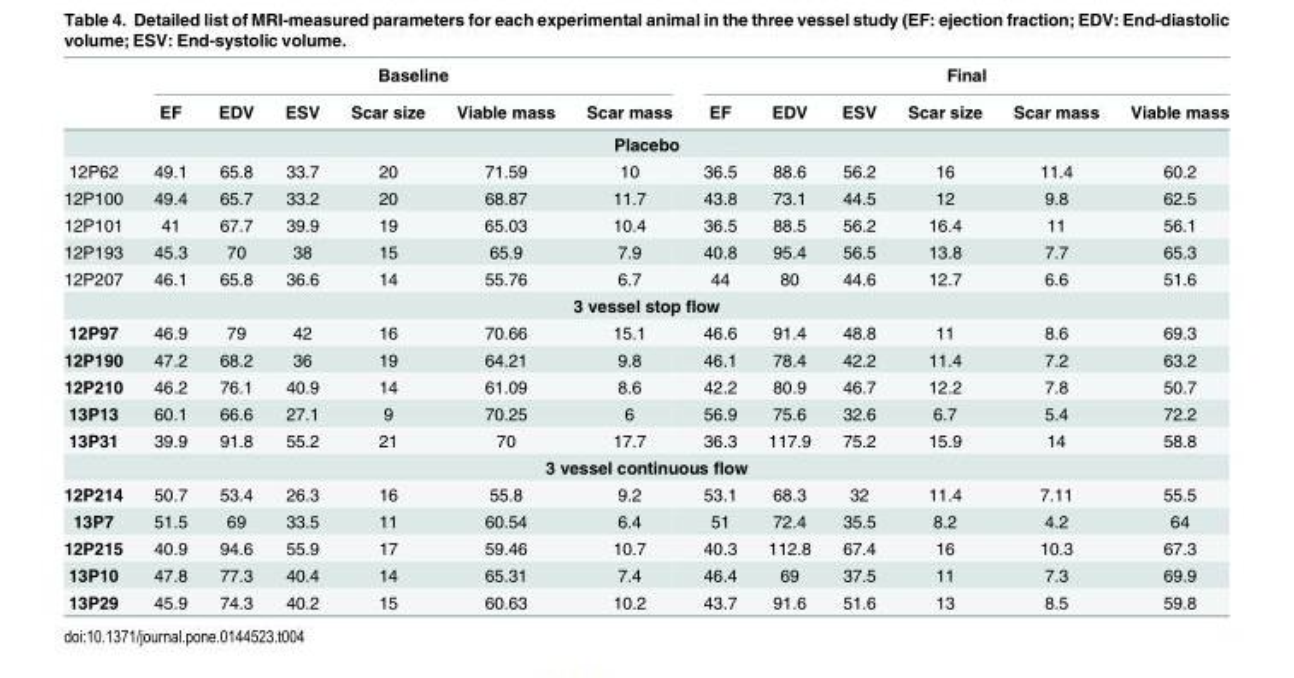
<table><thead><tr><td rowspan="2"></td><td colspan="6">Baseline</td><td colspan="6">Final</td></tr><tr><td>EF</td><td>EDV</td><td>ESV</td><td>Scar size</td><td>Viable mass</td><td>Scar mass</td><td>EF</td><td>EDV</td><td>ESV</td><td>Scar size</td><td>Scar mass</td><td>Viable mass</td></tr></thead><tbody><tr><td colspan="13">Placebo</td></tr><tr><td>12P62</td><td>49.1</td><td>65.8</td><td>33.7</td><td>20</td><td>71.59</td><td>10</td><td>36.5</td><td>88.6</td><td>56.2</td><td>16</td><td>11.4</td><td>60.2</td></tr><tr><td>12P100</td><td>49.4</td><td>65.7</td><td>33.2</td><td>20</td><td>68.87</td><td>11.7</td><td>43.8</td><td>73.1</td><td>44.5</td><td>12</td><td>9.8</td><td>62.5</td></tr><tr><td>12P101</td><td>41</td><td>67.7</td><td>39.9</td><td>19</td><td>65.03</td><td>10.4</td><td>36.5</td><td>88.5</td><td>56.2</td><td>16.4</td><td>11</td><td>56.1</td></tr><tr><td>12P193</td><td>45.3</td><td>70</td><td>38</td><td>15</td><td>65.9</td><td>7.9</td><td>40.8</td><td>95.4</td><td>56.5</td><td>13.8</td><td>7.7</td><td>65.3</td></tr><tr><td>12P207</td><td>46.1</td><td>65.8</td><td>36.6</td><td>14</td><td>55.76</td><td>6.7</td><td>44</td><td>80</td><td>44.6</td><td>12.7</td><td>6.6</td><td>51.6</td></tr><tr><td colspan="13">3 vessel stop flow</td></tr><tr><td>12P97</td><td>46.9</td><td>79</td><td>42</td><td>16</td><td>70.66</td><td>15.1</td><td>46.6</td><td>91.4</td><td>48.8</td><td>11</td><td>8.6</td><td>69.3</td></tr><tr><td>12P190</td><td>47.2</td><td>68.2</td><td>36</td><td>19</td><td>64.21</td><td>9.8</td><td>46.1</td><td>78.4</td><td>42.2</td><td>11.4</td><td>7.2</td><td>63.2</td></tr><tr><td>12P210</td><td>46.2</td><td>76.1</td><td>40.9</td><td>14</td><td>61.09</td><td>8.6</td><td>42.2</td><td>80.9</td><td>46.7</td><td>12.2</td><td>7.8</td><td>50.7</td></tr><tr><td>13P13</td><td>60.1</td><td>66.6</td><td>27.1</td><td>9</td><td>70.25</td><td>6</td><td>56.9</td><td>75.6</td><td>32.6</td><td>6.7</td><td>5.4</td><td>72.2</td></tr><tr><td>13P31</td><td>39.9</td><td>91.8</td><td>55.2</td><td>21</td><td>70</td><td>17.7</td><td>36.3</td><td>117.9</td><td>75.2</td><td>15.9</td><td>14</td><td>58.8</td></tr><tr><td colspan="13">3 vessel continuous flow</td></tr><tr><td>12P214</td><td>50.7</td><td>53.4</td><td>26.3</td><td>16</td><td>55.8</td><td>9.2</td><td>53.1</td><td>68.3</td><td>32</td><td>11.4</td><td>7.11</td><td>55.5</td></tr><tr><td>13P7</td><td>51.5</td><td>69</td><td>33.5</td><td>11</td><td>60.54</td><td>6.4</td><td>51</td><td>72.4</td><td>35.5</td><td>8.2</td><td>4.2</td><td>64</td></tr><tr><td>12P215</td><td>40.9</td><td>94.6</td><td>55.9</td><td>17</td><td>59.46</td><td>10.7</td><td>40.3</td><td>112.8</td><td>67.4</td><td>16</td><td>10.3</td><td>67.3</td></tr><tr><td>13P10</td><td>47.8</td><td>77.3</td><td>40.4</td><td>14</td><td>65.31</td><td>7.4</td><td>46.4</td><td>69</td><td>37.5</td><td>11</td><td>7.3</td><td>69.9</td></tr><tr><td>13P29</td><td>45.9</td><td>74.3</td><td>40.2</td><td>15</td><td>60.63</td><td>10.2</td><td>43.7</td><td>91.6</td><td>51.6</td><td>13</td><td>8.5</td><td>59.8</td></tr></tbody></table>